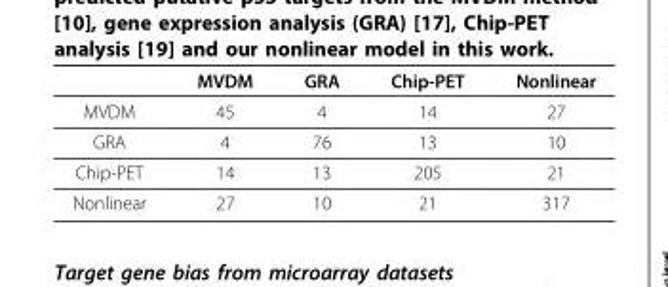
<table><thead><tr><td></td><td>MVDM</td><td>GRA</td><td>Chip-PET</td><td>Nonlinear</td></tr></thead><tbody><tr><td>MVDM</td><td>45</td><td>4</td><td>14</td><td>27</td></tr><tr><td>GRA</td><td>4</td><td>76</td><td>13</td><td>10</td></tr><tr><td>Chip-PET</td><td>14</td><td>13</td><td>205</td><td>21</td></tr><tr><td>Nonlinear</td><td>27</td><td>10</td><td>21</td><td>317</td></tr></tbody></table>